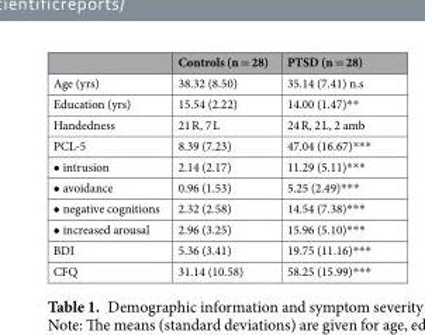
<table><thead><tr><td></td><td>Controls (n = 28)</td><td>PTSD (n = 28)</td></tr></thead><tbody><tr><td>Age (yrs)</td><td>38.32 (8.50)</td><td>35.14 (7.41) n.s</td></tr><tr><td>Education (yrs)</td><td>15.54 (2.22)</td><td>14.00 (1.47)**</td></tr><tr><td>Handedness</td><td>21 R, 7 L</td><td>24 R, 2 L, 2 amb</td></tr><tr><td>PCL-5</td><td>8.39 (7.23)</td><td>47.04 (16.67)***</td></tr><tr><td>• intrusion</td><td>2.14 (2.17)</td><td>11.29 (5.11)***</td></tr><tr><td>• avoidance</td><td>0.96 (1.53)</td><td>5.25 (2.49)***</td></tr><tr><td>• negative cognitions</td><td>2.32 (2.58)</td><td>14.54 (7.38)***</td></tr><tr><td>• increased arousal</td><td>2.96 (3.25)</td><td>15.96 (5.10)***</td></tr><tr><td>BDI</td><td>5.36 (3.41)</td><td>19.75 (11.16)***</td></tr><tr><td>CFQ</td><td>31.14 (10.58)</td><td>58.25 (15.99)***</td></tr></tbody></table>